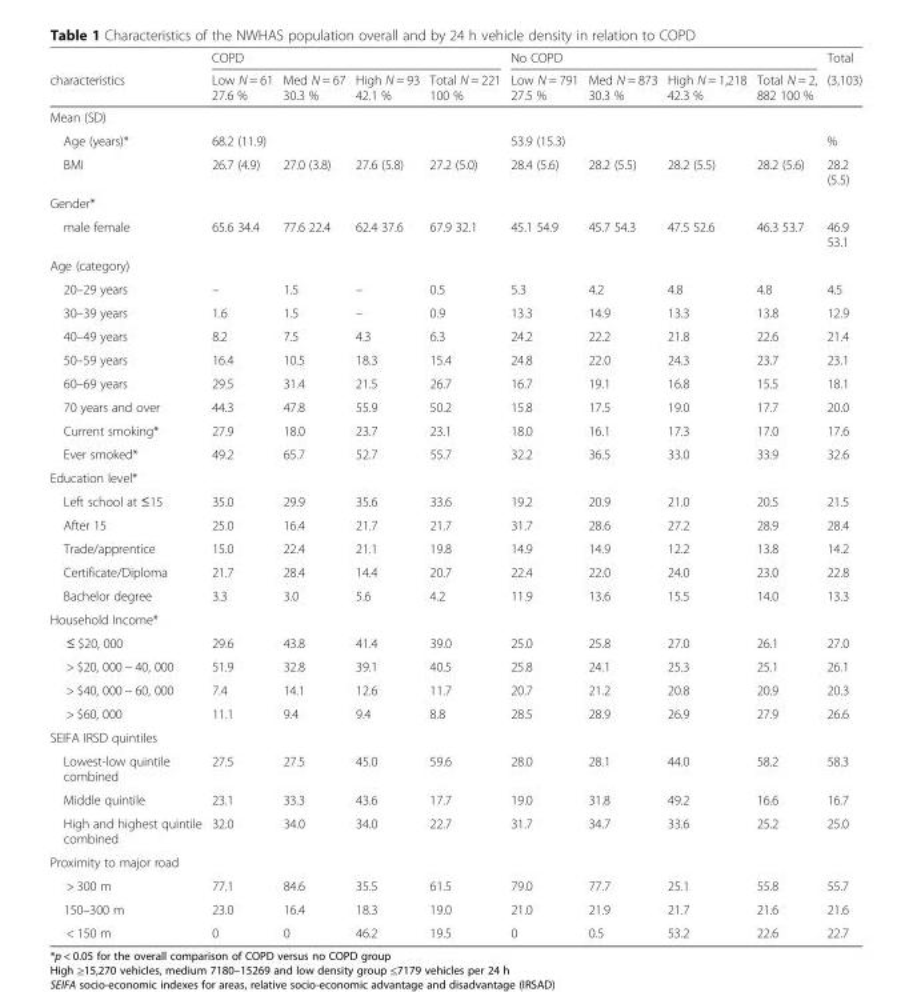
<table><thead><tr><td rowspan="2">characteristics</td><td colspan="4">COPD</td><td colspan="4">No COPD</td><td rowspan="2">Total (3,103)</td></tr><tr><td>Low N = 61 27.6 %</td><td>Med N = 67 30.3 %</td><td>High N = 93 42.1 %</td><td>Total N = 221 100 %</td><td>Low N = 791 27.5 %</td><td>Med N = 873 30.3 %</td><td>High N = 1,218 42.3 %</td><td>Total N = 2, 882 100 %</td></tr></thead><tbody><tr><td colspan="10">Mean (SD)</td></tr><tr><td>Age (years)*</td><td colspan="4">68.2 (11.9)</td><td colspan="4">53.9 (15.3)</td><td>%</td></tr><tr><td>BMI</td><td>26.7 (4.9)</td><td>27.0 (3.8)</td><td>27.6 (5.8)</td><td>27.2 (5.0)</td><td>28.4 (5.6)</td><td>28.2 (5.5)</td><td>28.2 (5.5)</td><td>28.2 (5.6)</td><td>28.2 (5.5)</td></tr><tr><td colspan="10">Gender*</td></tr><tr><td>male female</td><td>65.6 34.4</td><td>77.6 22.4</td><td>62.4 37.6</td><td>67.9 32.1</td><td>45.1 54.9</td><td>45.7 54.3</td><td>47.5 52.6</td><td>46.3 53.7</td><td>46.9 53.1</td></tr><tr><td colspan="10">Age (category)</td></tr><tr><td>20–29 years</td><td>–</td><td>1.5</td><td>–</td><td>0.5</td><td>5.3</td><td>4.2</td><td>4.8</td><td>4.8</td><td>4.5</td></tr><tr><td>30–39 years</td><td>1.6</td><td>1.5</td><td>–</td><td>0.9</td><td>13.3</td><td>14.9</td><td>13.3</td><td>13.8</td><td>12.9</td></tr><tr><td>40–49 years</td><td>8.2</td><td>7.5</td><td>4.3</td><td>6.3</td><td>24.2</td><td>22.2</td><td>21.8</td><td>22.6</td><td>21.4</td></tr><tr><td>50–59 years</td><td>16.4</td><td>10.5</td><td>18.3</td><td>15.4</td><td>24.8</td><td>22.0</td><td>24.3</td><td>23.7</td><td>23.1</td></tr><tr><td>60–69 years</td><td>29.5</td><td>31.4</td><td>21.5</td><td>26.7</td><td>16.7</td><td>19.1</td><td>16.8</td><td>15.5</td><td>18.1</td></tr><tr><td>70 years and over</td><td>44.3</td><td>47.8</td><td>55.9</td><td>50.2</td><td>15.8</td><td>17.5</td><td>19.0</td><td>17.7</td><td>20.0</td></tr><tr><td>Current smoking*</td><td>27.9</td><td>18.0</td><td>23.7</td><td>23.1</td><td>18.0</td><td>16.1</td><td>17.3</td><td>17.0</td><td>17.6</td></tr><tr><td>Ever smoked*</td><td>49.2</td><td>65.7</td><td>52.7</td><td>55.7</td><td>32.2</td><td>36.5</td><td>33.0</td><td>33.9</td><td>32.6</td></tr><tr><td colspan="10">Education level*</td></tr><tr><td>Left school at ≤15</td><td>35.0</td><td>29.9</td><td>35.6</td><td>33.6</td><td>19.2</td><td>20.9</td><td>21.0</td><td>20.5</td><td>21.5</td></tr><tr><td>After 15</td><td>25.0</td><td>16.4</td><td>21.7</td><td>21.7</td><td>31.7</td><td>28.6</td><td>27.2</td><td>28.9</td><td>28.4</td></tr><tr><td>Trade/apprentice</td><td>15.0</td><td>22.4</td><td>21.1</td><td>19.8</td><td>14.9</td><td>14.9</td><td>12.2</td><td>13.8</td><td>14.2</td></tr><tr><td>Certificate/Diploma</td><td>21.7</td><td>28.4</td><td>14.4</td><td>20.7</td><td>22.4</td><td>22.0</td><td>24.0</td><td>23.0</td><td>22.8</td></tr><tr><td>Bachelor degree</td><td>3.3</td><td>3.0</td><td>5.6</td><td>4.2</td><td>11.9</td><td>13.6</td><td>15.5</td><td>14.0</td><td>13.3</td></tr><tr><td colspan="10">Household Income*</td></tr><tr><td>≤ $20, 000</td><td>29.6</td><td>43.8</td><td>41.4</td><td>39.0</td><td>25.0</td><td>25.8</td><td>27.0</td><td>26.1</td><td>27.0</td></tr><tr><td>&gt; $20, 000 − 40, 000</td><td>51.9</td><td>32.8</td><td>39.1</td><td>40.5</td><td>25.8</td><td>24.1</td><td>25.3</td><td>25.1</td><td>26.1</td></tr><tr><td>&gt; $40, 000 − 60, 000</td><td>7.4</td><td>14.1</td><td>12.6</td><td>11.7</td><td>20.7</td><td>21.2</td><td>20.8</td><td>20.9</td><td>20.3</td></tr><tr><td>&gt; $60, 000</td><td>11.1</td><td>9.4</td><td>9.4</td><td>8.8</td><td>28.5</td><td>28.9</td><td>26.9</td><td>27.9</td><td>26.6</td></tr><tr><td colspan="10">SEIFA IRSD quintiles</td></tr><tr><td>Lowest-low quintile combined</td><td>27.5</td><td>27.5</td><td>45.0</td><td>59.6</td><td>28.0</td><td>28.1</td><td>44.0</td><td>58.2</td><td>58.3</td></tr><tr><td>Middle quintile</td><td>23.1</td><td>33.3</td><td>43.6</td><td>17.7</td><td>19.0</td><td>31.8</td><td>49.2</td><td>16.6</td><td>16.7</td></tr><tr><td>High and highest quintile combined</td><td>32.0</td><td>34.0</td><td>34.0</td><td>22.7</td><td>31.7</td><td>34.7</td><td>33.6</td><td>25.2</td><td>25.0</td></tr><tr><td colspan="10">Proximity to major road</td></tr><tr><td>&gt; 300 m</td><td>77.1</td><td>84.6</td><td>35.5</td><td>61.5</td><td>79.0</td><td>77.7</td><td>25.1</td><td>55.8</td><td>55.7</td></tr><tr><td>150–300 m</td><td>23.0</td><td>16.4</td><td>18.3</td><td>19.0</td><td>21.0</td><td>21.9</td><td>21.7</td><td>21.6</td><td>21.6</td></tr><tr><td>&lt; 150 m</td><td>0</td><td>0</td><td>46.2</td><td>19.5</td><td>0</td><td>0.5</td><td>53.2</td><td>22.6</td><td>22.7</td></tr></tbody></table>